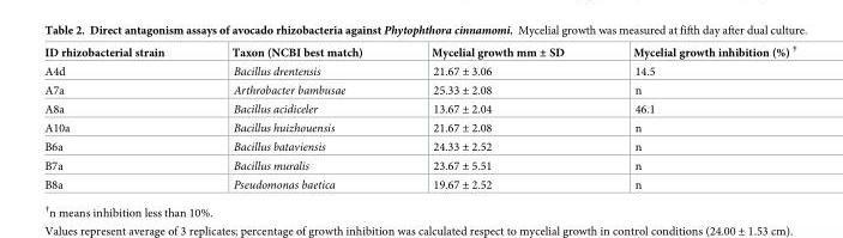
<table><thead><tr><td>ID rhizobacterial strain</td><td>Taxon (NCBI best match)</td><td>Mycelial growth mm ± SD</td><td>Mycelial growth inhibition (%) <sup>†</sup></td></tr></thead><tbody><tr><td>A4d</td><td>Bacillus drentensis</td><td>21.67 ± 3.06</td><td>14.5</td></tr><tr><td>A7a</td><td>Arthrobacter bambusae</td><td>25.33 ± 2.08</td><td>n</td></tr><tr><td>A8a</td><td>Bacillus acidiceler</td><td>13.67 ± 2.04</td><td>46.1</td></tr><tr><td>A10a</td><td>Bacillus huizhouensis</td><td>21.67 ± 2.08</td><td>n</td></tr><tr><td>B6a</td><td>Bacillus bataviensis</td><td>24.33 ± 2.52</td><td>n</td></tr><tr><td>B7a</td><td>Bacillus muralis</td><td>23.67 ± 5.51</td><td>n</td></tr><tr><td>B8a</td><td>Pseudomonas baetica</td><td>19.67 ± 2.52</td><td>n</td></tr></tbody></table>